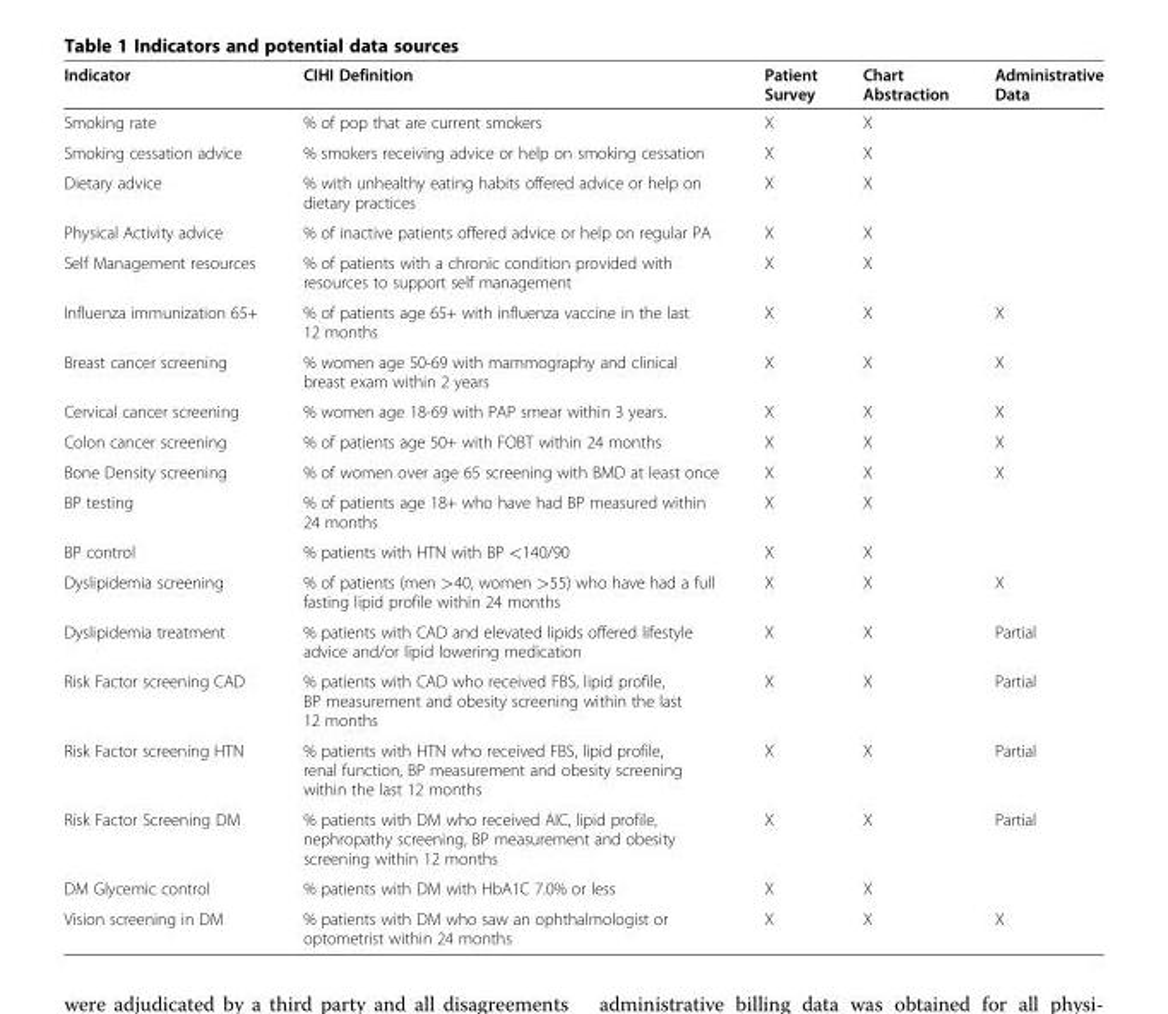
<table><thead><tr><td>Indicator</td><td>CIHI Definition</td><td>Patient Survey</td><td>Chart Abstraction</td><td>Administrative Data</td></tr></thead><tbody><tr><td>Smoking rate</td><td>% of pop that are current smokers</td><td>X</td><td>X</td><td></td></tr><tr><td>Smoking cessation advice</td><td>% smokers receiving advice or help on smoking cessation</td><td>X</td><td>X</td><td></td></tr><tr><td>Dietary advice</td><td>% with unhealthy eating habits offered advice or help on dietary practices</td><td>X</td><td>X</td><td></td></tr><tr><td>Physical Activity advice</td><td>% of inactive patients offered advice or help on regular PA</td><td>X</td><td>X</td><td></td></tr><tr><td>Self Management resources</td><td>% of patients with a chronic condition provided with resources to support self management</td><td>X</td><td>X</td><td></td></tr><tr><td>Influenza immunization 65+</td><td>% of patients age 65+ with influenza vaccine in the last 12 months</td><td>X</td><td>X</td><td>X</td></tr><tr><td>Breast cancer screening</td><td>% women age 50-69 with mammography and clinical breast exam within 2 years</td><td>X</td><td>X</td><td>X</td></tr><tr><td>Cervical cancer screening</td><td>% women age 18-69 with PAP smear within 3 years.</td><td>X</td><td>X</td><td>X</td></tr><tr><td>Colon cancer screening</td><td>% of patients age 50+ with FOBT within 24 months</td><td>X</td><td>X</td><td>X</td></tr><tr><td>Bone Density screening</td><td>% of women over age 65 screening with BMD at least once</td><td>X</td><td>X</td><td>X</td></tr><tr><td>BP testing</td><td>% of patients age 18+ who have had BP measured within 24 months</td><td>X</td><td>X</td><td></td></tr><tr><td>BP control</td><td>% patients with HTN with BP &lt;140/90</td><td>X</td><td>X</td><td></td></tr><tr><td>Dyslipidemia screening</td><td>% of patients (men &gt;40, women &gt;55) who have had a full fasting lipid profile within 24 months</td><td>X</td><td>X</td><td>X</td></tr><tr><td>Dyslipidemia treatment</td><td>% patients with CAD and elevated lipids offered lifestyle advice and/or lipid lowering medication</td><td>X</td><td>X</td><td>Partial</td></tr><tr><td>Risk Factor screening CAD</td><td>% patients with CAD who received FBS, lipid profile, BP measurement and obesity screening within the last 12 months</td><td>X</td><td>X</td><td>Partial</td></tr><tr><td>Risk Factor screening HTN</td><td>% patients with HTN who received FBS, lipid profile, renal function, BP measurement and obesity screening within the last 12 months</td><td>X</td><td>X</td><td>Partial</td></tr><tr><td>Risk Factor Screening DM</td><td>% patients with DM who received AIC, lipid profile, nephropathy screening, BP measurement and obesity screening within 12 months</td><td>X</td><td>X</td><td>Partial</td></tr><tr><td>DM Glycemic control</td><td>% patients with DM with HbA1C 7.0% or less</td><td>X</td><td>X</td><td></td></tr><tr><td>Vision screening in DM</td><td>% patients with DM who saw an ophthalmologist or optometrist within 24 months</td><td>X</td><td>X</td><td>X</td></tr></tbody></table>